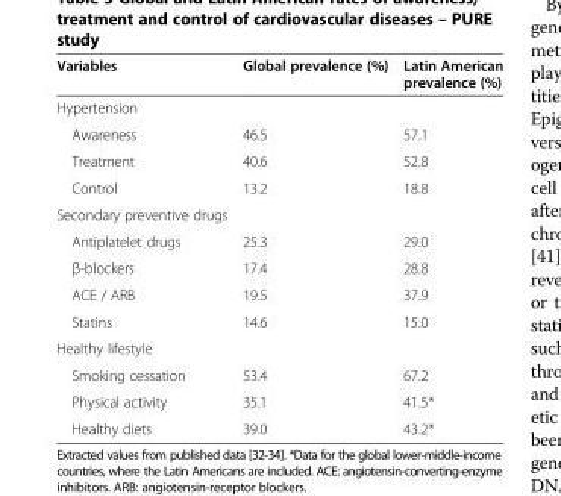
<table><thead><tr><td>Variables</td><td>Global prevalence (%)</td><td>Latin American prevalence (%)</td></tr></thead><tbody><tr><td colspan="3">Hypertension</td></tr><tr><td>Awareness</td><td>46.5</td><td>57.1</td></tr><tr><td>Treatment</td><td>40.6</td><td>52.8</td></tr><tr><td>Control</td><td>13.2</td><td>18.8</td></tr><tr><td colspan="3">Secondary preventive drugs</td></tr><tr><td>Antiplatelet drugs</td><td>25.3</td><td>29.0</td></tr><tr><td>β-blockers</td><td>17.4</td><td>28.8</td></tr><tr><td>ACE / ARB</td><td>19.5</td><td>37.9</td></tr><tr><td>Statins</td><td>14.6</td><td>15.0</td></tr><tr><td colspan="3">Healthy lifestyle</td></tr><tr><td>Smoking cessation</td><td>53.4</td><td>67.2</td></tr><tr><td>Physical activity</td><td>35.1</td><td>41.5*</td></tr><tr><td>Healthy diets</td><td>39.0</td><td>43.2*</td></tr></tbody></table>